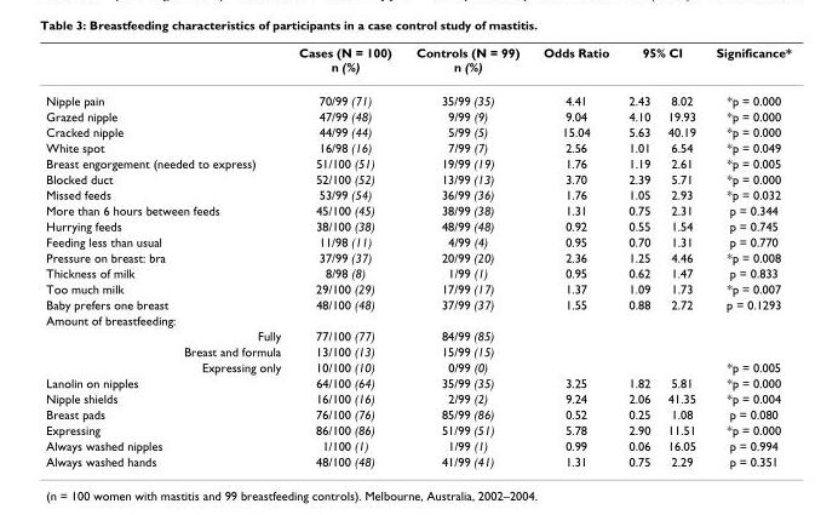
<table><thead><tr><td rowspan="2">Nipple pain</td><td rowspan="2">Cases (N = 100) n (%) 70/99 (71)</td><td rowspan="2">Controls (N = 99) n (%) 35/99 (35)</td><td rowspan="2">Odds Ratio 4.41</td><td colspan="2">95% CI</td><td rowspan="2">Significance* *p = 0.000</td></tr><tr><td>2.43</td><td>8.02</td></tr></thead><tbody><tr><td>Grazed nipple</td><td>47/99 (48)</td><td>9/99 (9)</td><td>9.04</td><td>4.10</td><td>19.93</td><td>*p = 0.000</td></tr><tr><td>Cracked nipple</td><td>44/99 (44)</td><td>5/99 (5)</td><td>15.04</td><td>5.63</td><td>40.19</td><td>*p = 0.000</td></tr><tr><td>White spot</td><td>16/98 (16)</td><td>7/99 (7)</td><td>2.56</td><td>1.01</td><td>6.54</td><td>*p = 0.049</td></tr><tr><td>Breast engorgement (needed to express)</td><td>51/100 (51)</td><td>19/99 (19)</td><td>1.76</td><td>1.19</td><td>2.61</td><td>*p = 0.005</td></tr><tr><td>Blocked duct</td><td>52/100 (52)</td><td>13/99 (13)</td><td>3.70</td><td>2.39</td><td>5.71</td><td>*p = 0.000</td></tr><tr><td>Missed feeds</td><td>53/99 (54)</td><td>36/99 (36)</td><td>1.76</td><td>1.05</td><td>2.93</td><td>*p = 0.032</td></tr><tr><td>More than 6 hours between feeds</td><td>45/100 (45)</td><td>38/99 (38)</td><td>1.31</td><td>0.75</td><td>2.31</td><td>p = 0.344</td></tr><tr><td>Hurrying feeds</td><td>38/100 (38)</td><td>48/99 (48)</td><td>0.92</td><td>0.55</td><td>1.54</td><td>p = 0.745</td></tr><tr><td>Feeding less than usual</td><td>11/98 (11)</td><td>4/99 (4)</td><td>0.95</td><td>0.70</td><td>1.31</td><td>p = 0.770</td></tr><tr><td>Pressure on breast: bra</td><td>37/99 (37)</td><td>20/99 (20)</td><td>2.36</td><td>1.25</td><td>4.46</td><td>*p = 0.008</td></tr><tr><td>Thickness of milk</td><td>8/98 (8)</td><td>1/99 (1)</td><td>0.95</td><td>0.62</td><td>1.47</td><td>p = 0.833</td></tr><tr><td>Too much milk</td><td>29/100 (29)</td><td>17/99 (17)</td><td>1.37</td><td>1.09</td><td>1.73</td><td>*p = 0.007</td></tr><tr><td>Baby prefers one breast</td><td>48/100 (48)</td><td>37/99 (37)</td><td>1.55</td><td>0.88</td><td>2.72</td><td>p = 0.1293</td></tr><tr><td colspan="7">Amount of breastfeeding:</td></tr><tr><td>Fully</td><td>77/100 (77)</td><td>84/99 (85)</td><td></td><td></td><td></td><td></td></tr><tr><td>Breast and formula</td><td>13/100 (13)</td><td>15/99 (15)</td><td></td><td></td><td></td><td></td></tr><tr><td>Expressing only</td><td>10/100 (10)</td><td>0/99 (0)</td><td></td><td></td><td></td><td>*p = 0.005</td></tr><tr><td>Lanolin on nipples</td><td>64/100 (64)</td><td>35/99 (35)</td><td>3.25</td><td>1.82</td><td>5.81</td><td>*p = 0.000</td></tr><tr><td>Nipple shields</td><td>16/100 (16)</td><td>2/99 (2)</td><td>9.24</td><td>2.06</td><td>41.35</td><td>*p = 0.004</td></tr><tr><td>Breast pads</td><td>76/100 (76)</td><td>85/99 (86)</td><td>0.52</td><td>0.25</td><td>1.08</td><td>p = 0.080</td></tr><tr><td>Expressing</td><td>86/100 (86)</td><td>51/99 (51)</td><td>5.78</td><td>2.90</td><td>11.51</td><td>*p = 0.000</td></tr><tr><td>Always washed nipples</td><td>1/100 (1)</td><td>1/99 (1)</td><td>0.99</td><td>0.06</td><td>16.05</td><td>p = 0.994</td></tr><tr><td>Always washed hands</td><td>48/100 (48)</td><td>41/99 (41)</td><td>1.31</td><td>0.75</td><td>2.29</td><td>p = 0.351</td></tr></tbody></table>